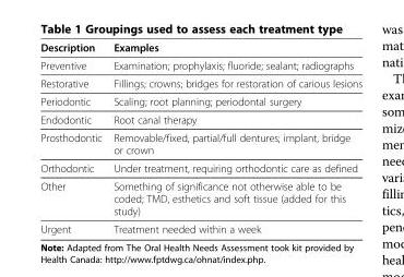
<table><thead><tr><td>Description</td><td>Examples</td></tr></thead><tbody><tr><td>Preventive</td><td>Examination; prophylaxis; fluoride; sealant; radiographs</td></tr><tr><td>Restorative</td><td>Fillings; crowns; bridges for restoration of carious lesions</td></tr><tr><td>Periodontic</td><td>Scaling; root planning; periodontal surgery</td></tr><tr><td>Endodontic</td><td>Root canal therapy</td></tr><tr><td>Prosthodontic</td><td>Removable/fixed, partial/full dentures; implant, bridge or crown</td></tr><tr><td>Orthodontic</td><td>Under treatment, requiring orthodontic care as defined</td></tr><tr><td>Other</td><td>Something of significance not otherwise able to be coded; TMD, esthetics and soft tissue (added for this study)</td></tr><tr><td>Urgent</td><td>Treatment needed within a week</td></tr></tbody></table>